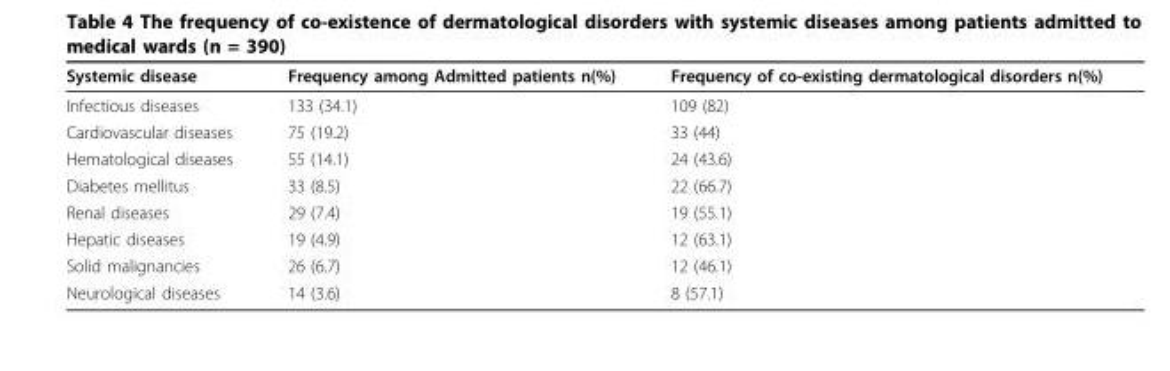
<table><thead><tr><td>Systemic disease</td><td>Frequency among Admitted patients n(%)</td><td>Frequency of co-existing dermatological disorders n(%)</td></tr></thead><tbody><tr><td>Infectious diseases</td><td>133 (34.1)</td><td>109 (82)</td></tr><tr><td>Cardiovascular diseases</td><td>75 (19.2)</td><td>33 (44)</td></tr><tr><td>Hematological diseases</td><td>55 (14.1)</td><td>24 (43.6)</td></tr><tr><td>Diabetes mellitus</td><td>33 (8.5)</td><td>22 (66.7)</td></tr><tr><td>Renal diseases</td><td>29 (7.4)</td><td>19 (55.1)</td></tr><tr><td>Hepatic diseases</td><td>19 (4.9)</td><td>12 (63.1)</td></tr><tr><td>Solid malignancies</td><td>26 (6.7)</td><td>12 (46.1)</td></tr><tr><td>Neurological diseases</td><td>14 (3.6)</td><td>8 (57.1)</td></tr></tbody></table>